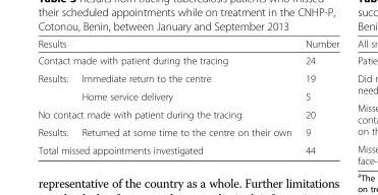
<table><thead><tr><td>Results</td><td></td><td>Number</td></tr></thead><tbody><tr><td colspan="2">Contact made with patient during the tracing</td><td>24</td></tr><tr><td rowspan="2">Results:</td><td>Immediate return to the centre</td><td>19</td></tr><tr><td>Home service delivery</td><td>5</td></tr><tr><td colspan="2">No contact made with patient during the tracing</td><td>20</td></tr><tr><td>Results:</td><td>Returned at some time to the centre on their own</td><td>9</td></tr><tr><td colspan="2">Total missed appointments investigated</td><td>44</td></tr></tbody></table>